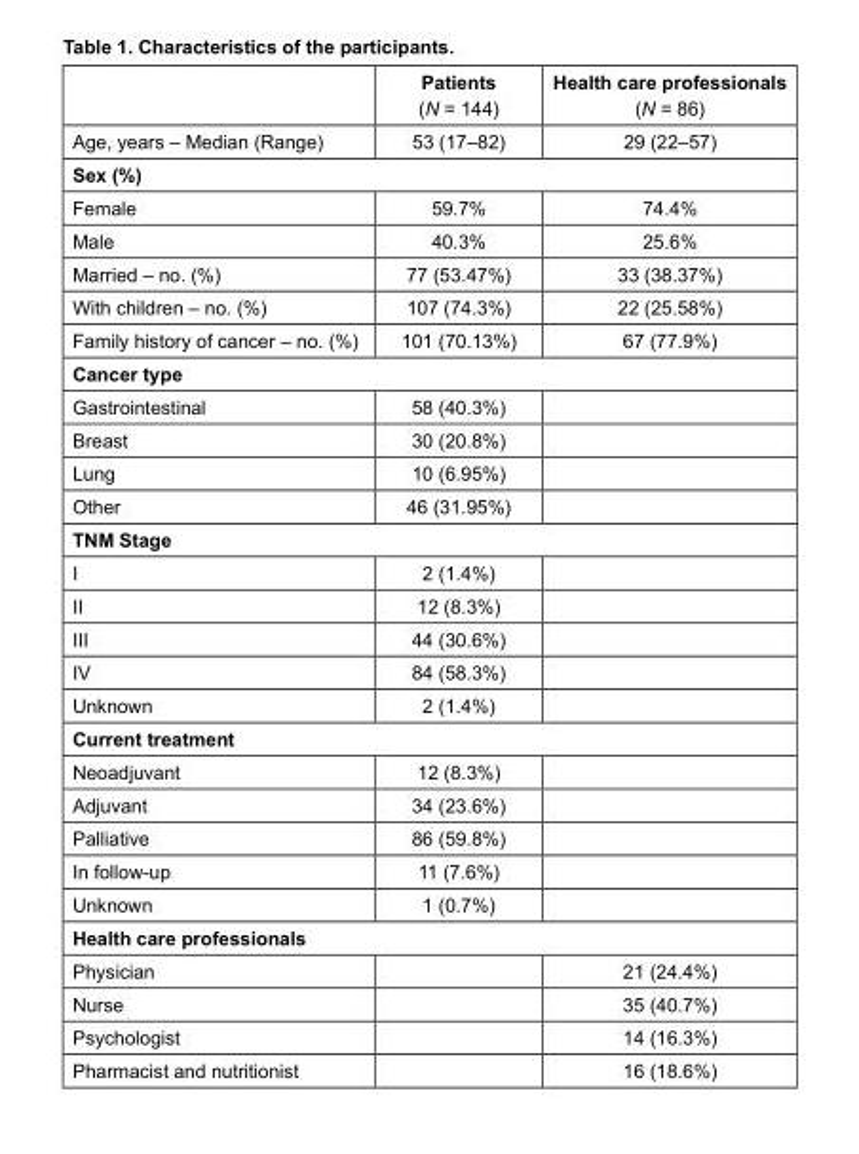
<table><thead><tr><td></td><td>Patients (N = 144)</td><td>Health care professionals (N = 86)</td></tr></thead><tbody><tr><td>Age, years – Median (Range)</td><td>53 (17–82)</td><td>29 (22–57)</td></tr><tr><td colspan="3">Sex (%)</td></tr><tr><td>Female</td><td>59.7%</td><td>74.4%</td></tr><tr><td>Male</td><td>40.3%</td><td>25.6%</td></tr><tr><td>Married – no. (%)</td><td>77 (53.47%)</td><td>33 (38.37%)</td></tr><tr><td>With children – no. (%)</td><td>107 (74.3%)</td><td>22 (25.58%)</td></tr><tr><td>Family history of cancer – no. (%)</td><td>101 (70.13%)</td><td>67 (77.9%)</td></tr><tr><td colspan="3">Cancer type</td></tr><tr><td>Gastrointestinal</td><td>58 (40.3%)</td><td></td></tr><tr><td>Breast</td><td>30 (20.8%)</td><td></td></tr><tr><td>Lung</td><td>10 (6.95%)</td><td></td></tr><tr><td>Other</td><td>46 (31.95%)</td><td></td></tr><tr><td colspan="3">TNM Stage</td></tr><tr><td>I</td><td>2 (1.4%)</td><td></td></tr><tr><td>II</td><td>12 (8.3%)</td><td></td></tr><tr><td>III</td><td>44 (30.6%)</td><td></td></tr><tr><td>IV</td><td>84 (58.3%)</td><td></td></tr><tr><td>Unknown</td><td>2 (1.4%)</td><td></td></tr><tr><td colspan="3">Current treatment</td></tr><tr><td>Neoadjuvant</td><td>12 (8.3%)</td><td></td></tr><tr><td>Adjuvant</td><td>34 (23.6%)</td><td></td></tr><tr><td>Palliative</td><td>86 (59.8%)</td><td></td></tr><tr><td>In follow-up</td><td>11 (7.6%)</td><td></td></tr><tr><td>Unknown</td><td>1 (0.7%)</td><td></td></tr><tr><td colspan="3">Health care professionals</td></tr><tr><td>Physician</td><td></td><td>21 (24.4%)</td></tr><tr><td>Nurse</td><td></td><td>35 (40.7%)</td></tr><tr><td>Psychologist</td><td></td><td>14 (16.3%)</td></tr><tr><td>Pharmacist and nutritionist</td><td></td><td>16 (18.6%)</td></tr></tbody></table>